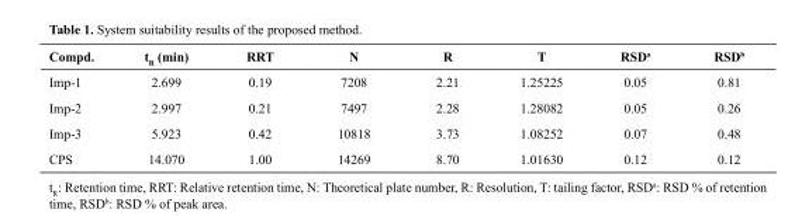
<table><thead><tr><td>Compd.</td><td>t<sub>R</sub> (min)</td><td>RRT</td><td>N</td><td>R</td><td>T</td><td>RSDa</td><td>RSDb</td></tr></thead><tbody><tr><td>Imp-1</td><td>2.699</td><td>0.19</td><td>7208</td><td>2.21</td><td>1.25225</td><td>0.05</td><td>0.81</td></tr><tr><td>Imp-2</td><td>2.997</td><td>0.21</td><td>7497</td><td>2.28</td><td>1.28082</td><td>0.05</td><td>0.26</td></tr><tr><td>Imp-3</td><td>5.923</td><td>0.42</td><td>10818</td><td>3.73</td><td>1.08252</td><td>0.07</td><td>0.48</td></tr><tr><td>CPS</td><td>14.070</td><td>1.00</td><td>14269</td><td>8.70</td><td>1.01630</td><td>0.12</td><td>0.12</td></tr></tbody></table>